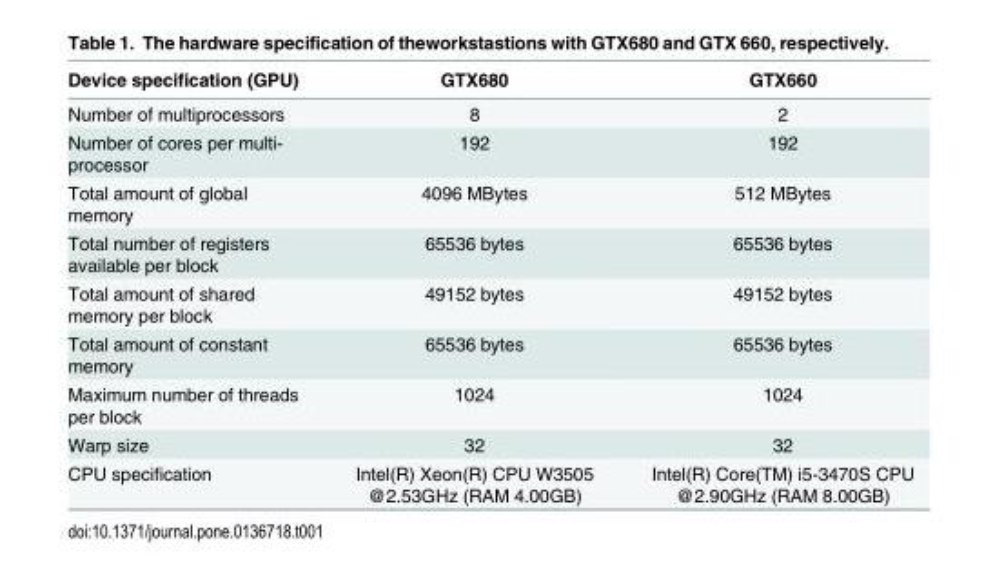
<table><thead><tr><td>Device specification (GPU)</td><td>GTX680</td><td>GTX660</td></tr></thead><tbody><tr><td>Number of multiprocessors</td><td>8</td><td>2</td></tr><tr><td>Number of cores per multi- processor</td><td>192</td><td>192</td></tr><tr><td>Total amount of global memory</td><td>4096 MBytes</td><td>512 MBytes</td></tr><tr><td>Total number of registers available per block</td><td>65536 bytes</td><td>65536 bytes</td></tr><tr><td>Total amount of shared memory per block</td><td>49152 bytes</td><td>49152 bytes</td></tr><tr><td>Total amount of constant memory</td><td>65536 bytes</td><td>65536 bytes</td></tr><tr><td>Maximum number of threads per block</td><td>1024</td><td>1024</td></tr><tr><td>Warp size</td><td>32</td><td>32</td></tr><tr><td>CPU specification</td><td>Intel(R) Xeon(R) CPU W3505 @2.53GHz (RAM 4.00GB)</td><td>Intel(R) Core(TM) i5-3470S CPU @2.90GHz (RAM 8.00GB)</td></tr></tbody></table>